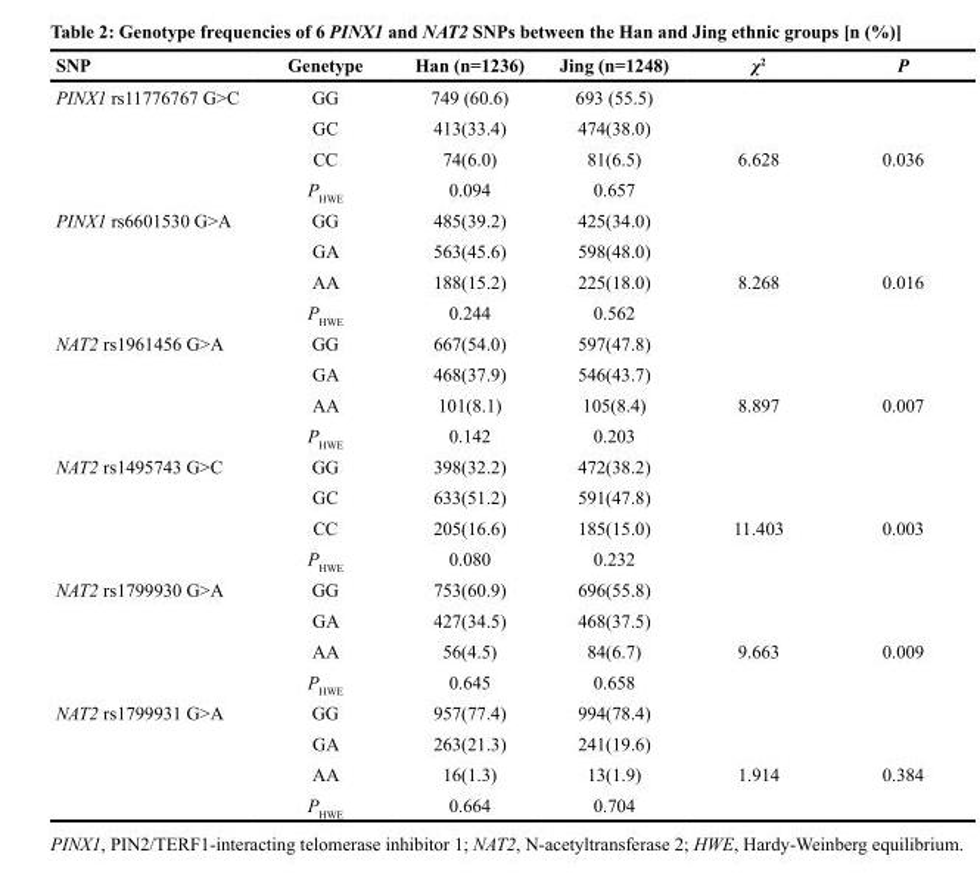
<table><thead><tr><td>SNP</td><td>Genetype</td><td>Han (n=1236)</td><td>Jing (n=1248)</td><td>χ<sup>2</sup></td><td>P</td></tr></thead><tbody><tr><td rowspan="4">PINX1 rs11776767 G&gt;C</td><td>GG</td><td>749 (60.6)</td><td>693 (55.5)</td><td></td><td></td></tr><tr><td>GC</td><td>413(33.4)</td><td>474(38.0)</td><td></td><td></td></tr><tr><td>CC</td><td>74(6.0)</td><td>81(6.5)</td><td>6.628</td><td>0.036</td></tr><tr><td>P<sub>HWE</sub></td><td>0.094</td><td>0.657</td><td></td><td></td></tr><tr><td rowspan="4">PINX1 rs6601530 G&gt;A</td><td>GG</td><td>485(39.2)</td><td>425(34.0)</td><td></td><td></td></tr><tr><td>GA</td><td>563(45.6)</td><td>598(48.0)</td><td></td><td></td></tr><tr><td>AA</td><td>188(15.2)</td><td>225(18.0)</td><td>8.268</td><td>0.016</td></tr><tr><td>P<sub>HWE</sub></td><td>0.244</td><td>0.562</td><td></td><td></td></tr><tr><td rowspan="4">NAT2 rs1961456 G&gt;A</td><td>GG</td><td>667(54.0)</td><td>597(47.8)</td><td></td><td></td></tr><tr><td>GA</td><td>468(37.9)</td><td>546(43.7)</td><td></td><td></td></tr><tr><td>AA</td><td>101(8.1)</td><td>105(8.4)</td><td>8.897</td><td>0.007</td></tr><tr><td>P<sub>HWE</sub></td><td>0.142</td><td>0.203</td><td></td><td></td></tr><tr><td rowspan="4">NAT2 rs1495743 G&gt;C</td><td>GG</td><td>398(32.2)</td><td>472(38.2)</td><td></td><td></td></tr><tr><td>GC</td><td>633(51.2)</td><td>591(47.8)</td><td></td><td></td></tr><tr><td>CC</td><td>205(16.6)</td><td>185(15.0)</td><td>11.403</td><td>0.003</td></tr><tr><td>P<sub>HWE</sub></td><td>0.080</td><td>0.232</td><td></td><td></td></tr><tr><td rowspan="4">NAT2 rs1799930 G&gt;A</td><td>GG</td><td>753(60.9)</td><td>696(55.8)</td><td></td><td></td></tr><tr><td>GA</td><td>427(34.5)</td><td>468(37.5)</td><td></td><td></td></tr><tr><td>AA</td><td>56(4.5)</td><td>84(6.7)</td><td>9.663</td><td>0.009</td></tr><tr><td>P<sub>HWE</sub></td><td>0.645</td><td>0.658</td><td></td><td></td></tr><tr><td rowspan="4">NAT2 rs1799931 G&gt;A</td><td>GG</td><td>957(77.4)</td><td>994(78.4)</td><td></td><td></td></tr><tr><td>GA</td><td>263(21.3)</td><td>241(19.6)</td><td></td><td></td></tr><tr><td>AA</td><td>16(1.3)</td><td>13(1.9)</td><td>1.914</td><td>0.384</td></tr><tr><td>P<sub>HWE</sub></td><td>0.664</td><td>0.704</td><td></td><td></td></tr></tbody></table>